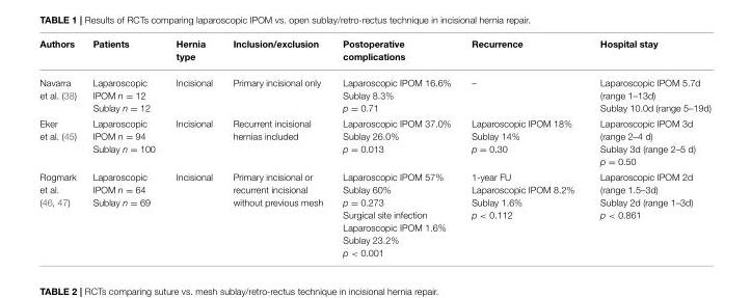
<table><thead><tr><td>Authors</td><td>Patients</td><td>Hernia type</td><td>Inclusion/exclusion</td><td>Postoperative complications</td><td>Recurrence</td><td>Hospital stay</td></tr></thead><tbody><tr><td>Navarra et al. (38)</td><td>Laparoscopic IPOM n = 12 Sublay n = 12</td><td>Incisional</td><td>Primary incisional only</td><td>Laparoscopic IPOM 16.6% Sublay 8.3% p = 0.71</td><td>–</td><td>Laparoscopic IPOM 5.7d (range 1–13d) Sublay 10.0d (range 5–19d)</td></tr><tr><td>Eker et al. (45)</td><td>Laparoscopic IPOM n = 94 Sublay n = 100</td><td>Incisional</td><td>Recurrent incisional hernias included</td><td>Laparoscopic IPOM 37.0% Sublay 26.0% p = 0.013</td><td>Laparoscopic IPOM 18% Sublay 14% p = 0.30</td><td>Laparoscopic IPOM 3d (range 2–4 d) Sublay 3d (range 2–5 d) p = 0.50</td></tr><tr><td>Rogmark et al. (46, 47)</td><td>Laparoscopic IPOM n = 64 Sublay n = 69</td><td>Incisional</td><td>Primary incisional or recurrent incisional without previous mesh</td><td>Laparoscopic IPOM 57% Sublay 60% p = 0.273 Surgical site infection Laparoscopic IPOM 1.6% Sublay 23.2% p &lt; 0.001</td><td>1-year FU Laparoscopic IPOM 8.2% Sublay 1.6% p &lt; 0.112</td><td>Laparoscopic IPOM 2d (range 1.5–3d) Sublay 2d (range 1–3d) p &lt; 0.861</td></tr></tbody></table>